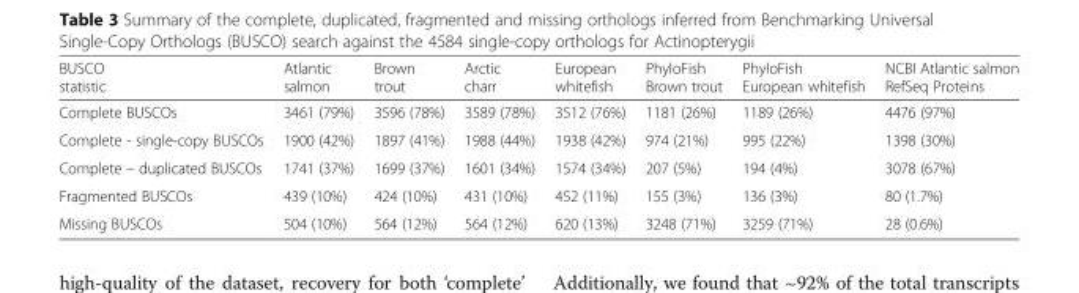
<table><thead><tr><td>BUSCO statistic</td><td>Atlantic salmon</td><td>Brown trout</td><td>Arctic charr</td><td>European whitefish</td><td>PhyloFish Brown trout</td><td>PhyloFish European whitefish</td><td>NCBI Atlantic salmon RefSeq Proteins</td></tr></thead><tbody><tr><td>Complete BUSCOs</td><td>3461 (79%)</td><td>3596 (78%)</td><td>3589 (78%)</td><td>3512 (76%)</td><td>1181 (26%)</td><td>1189 (26%)</td><td>4476 (97%)</td></tr><tr><td>Complete - single-copy BUSCOs</td><td>1900 (42%)</td><td>1897 (41%)</td><td>1988 (44%)</td><td>1938 (42%)</td><td>974 (21%)</td><td>995 (22%)</td><td>1398 (30%)</td></tr><tr><td>Complete – duplicated BUSCOs</td><td>1741 (37%)</td><td>1699 (37%)</td><td>1601 (34%)</td><td>1574 (34%)</td><td>207 (5%)</td><td>194 (4%)</td><td>3078 (67%)</td></tr><tr><td>Fragmented BUSCOs</td><td>439 (10%)</td><td>424 (10%)</td><td>431 (10%)</td><td>452 (11%)</td><td>155 (3%)</td><td>136 (3%)</td><td>80 (1.7%)</td></tr><tr><td>Missing BUSCOs</td><td>504 (10%)</td><td>564 (12%)</td><td>564 (12%)</td><td>620 (13%)</td><td>3248 (71%)</td><td>3259 (71%)</td><td>28 (0.6%)</td></tr></tbody></table>